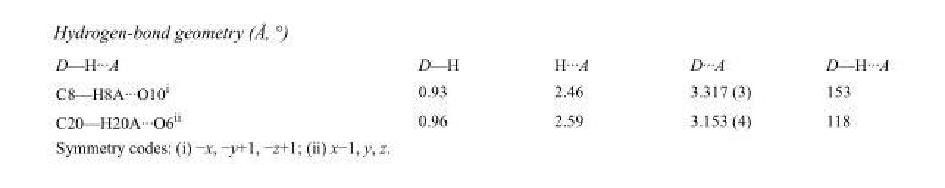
<table><tbody><tr><td>D—H···A</td><td>D—H</td><td>H···A</td><td>D···A</td><td>D—H···A</td></tr><tr><td>C8—H8A···O10<sup>i</sup></td><td>0.93</td><td>2.46</td><td>3.317 (3)</td><td>153</td></tr><tr><td>C20—H20A···O6<sup>ii</sup></td><td>0.96</td><td>2.59</td><td>3.153 (4)</td><td>118</td></tr></tbody></table>